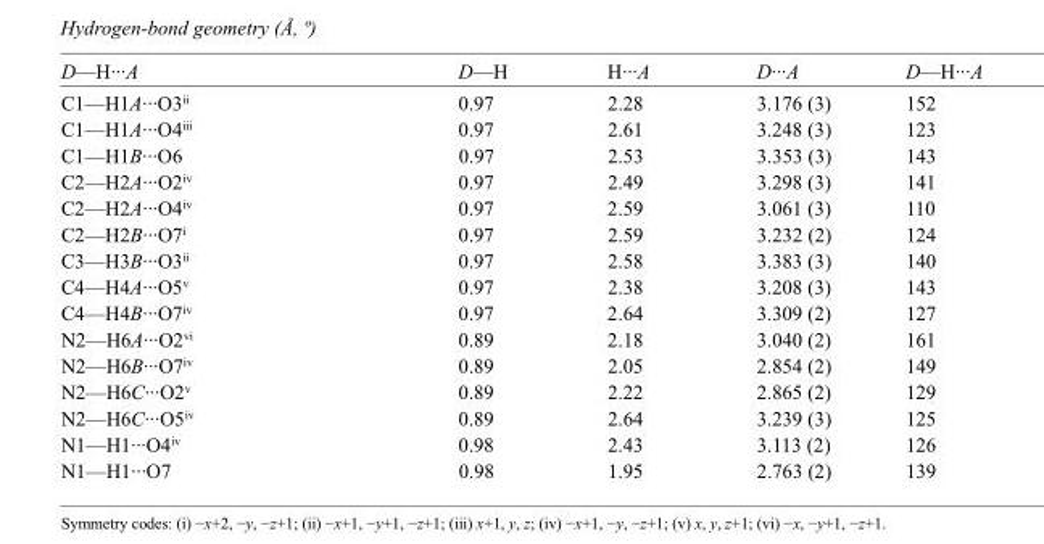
<table><tbody><tr><td>D—H···A</td><td>D—H</td><td>H···A</td><td>D···A</td><td>D—H···A</td></tr><tr><td>C1—H1A···O3<sup>ii</sup></td><td>0.97</td><td>2.28</td><td>3.176 (3)</td><td>152</td></tr><tr><td>C1—H1A···O4<sup>iii</sup></td><td>0.97</td><td>2.61</td><td>3.248 (3)</td><td>123</td></tr><tr><td>C1—H1B···O6</td><td>0.97</td><td>2.53</td><td>3.353 (3)</td><td>143</td></tr><tr><td>C2—H2A···O2<sup>iv</sup></td><td>0.97</td><td>2.49</td><td>3.298 (3)</td><td>141</td></tr><tr><td>C2—H2A···O4<sup>iv</sup></td><td>0.97</td><td>2.59</td><td>3.061 (3)</td><td>110</td></tr><tr><td>C2—H2B···O7<sup>i</sup></td><td>0.97</td><td>2.59</td><td>3.232 (2)</td><td>124</td></tr><tr><td>C3—H3B···O3<sup>ii</sup></td><td>0.97</td><td>2.58</td><td>3.383 (3)</td><td>140</td></tr><tr><td>C4—H4A···O5<sup>v</sup></td><td>0.97</td><td>2.38</td><td>3.208 (3)</td><td>143</td></tr><tr><td>C4—H4B···O7<sup>iv</sup></td><td>0.97</td><td>2.64</td><td>3.309 (2)</td><td>127</td></tr><tr><td>N2—H6A···O2<sup>vi</sup></td><td>0.89</td><td>2.18</td><td>3.040 (2)</td><td>161</td></tr><tr><td>N2—H6B···O7<sup>iv</sup></td><td>0.89</td><td>2.05</td><td>2.854 (2)</td><td>149</td></tr><tr><td>N2—H6C···O2<sup>v</sup></td><td>0.89</td><td>2.22</td><td>2.865 (2)</td><td>129</td></tr><tr><td>N2—H6C···O5<sup>iv</sup></td><td>0.89</td><td>2.64</td><td>3.239 (3)</td><td>125</td></tr><tr><td>N1—H1···O4<sup>iv</sup></td><td>0.98</td><td>2.43</td><td>3.113 (2)</td><td>126</td></tr><tr><td>N1—H1···O7</td><td>0.98</td><td>1.95</td><td>2.763 (2)</td><td>139</td></tr></tbody></table>